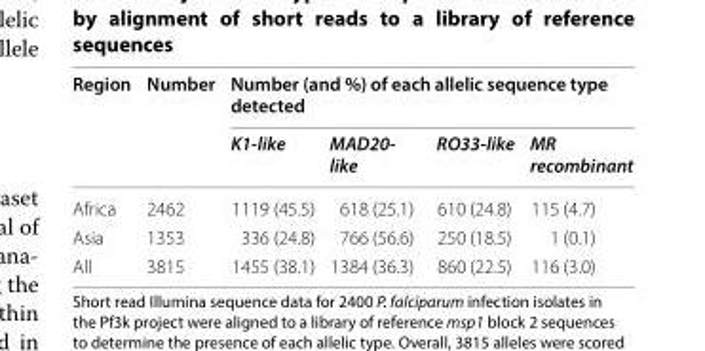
<table><thead><tr><td rowspan="2">Region</td><td rowspan="2">Number</td><td colspan="4">Number (and %) of each allelic sequence type detected</td></tr><tr><td>K1‑like</td><td>MAD20‑ like</td><td>RO33‑like</td><td>MR recombinant</td></tr></thead><tbody><tr><td>Africa</td><td>2462</td><td>1119 (45.5)</td><td>618 (25.1)</td><td>610 (24.8)</td><td>115 (4.7)</td></tr><tr><td>Asia</td><td>1353</td><td>336 (24.8)</td><td>766 (56.6)</td><td>250 (18.5)</td><td>1 (0.1)</td></tr><tr><td>All</td><td>3815</td><td>1455 (38.1)</td><td>1384 (36.3)</td><td>860 (22.5)</td><td>116 (3.0)</td></tr></tbody></table>